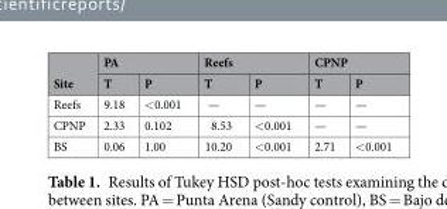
<table><thead><tr><td rowspan="2">Site</td><td colspan="2">PA</td><td colspan="2">Reefs</td><td colspan="2">CPNP</td></tr><tr><td>T</td><td>P</td><td>T</td><td>P</td><td>T</td><td>P</td></tr></thead><tbody><tr><td>Reefs</td><td>9.18</td><td>&lt;0.001</td><td>—</td><td>—</td><td>—</td><td>—</td></tr><tr><td>CPNP</td><td>2.33</td><td>0.102</td><td>8.53</td><td>&lt;0.001</td><td>—</td><td>—</td></tr><tr><td>BS</td><td>0.06</td><td>1.00</td><td>10.20</td><td>&lt;0.001</td><td>2.71</td><td>&lt;0.001</td></tr></tbody></table>